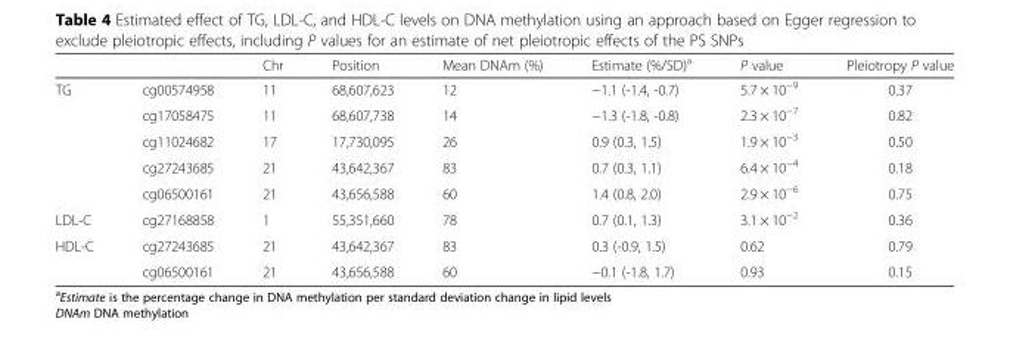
<table><thead><tr><td></td><td></td><td>Chr</td><td>Position</td><td>Mean DNAm (%)</td><td>Estimate (%/SD)<sup>a</sup></td><td>P value</td><td>Pleiotropy P value</td></tr></thead><tbody><tr><td rowspan="5">TG</td><td>cg00574958</td><td>11</td><td>68,607,623</td><td>12</td><td>−1.1 (-1.4, -0.7)</td><td>5.7 × 10<sup>−9</sup></td><td>0.37</td></tr><tr><td>cg17058475</td><td>11</td><td>68,607,738</td><td>14</td><td>−1.3 (-1.8, -0.8)</td><td>2.3 × 10<sup>−7</sup></td><td>0.82</td></tr><tr><td>cg11024682</td><td>17</td><td>17,730,095</td><td>26</td><td>0.9 (0.3, 1.5)</td><td>1.9 × 10<sup>−3</sup></td><td>0.50</td></tr><tr><td>cg27243685</td><td>21</td><td>43,642,367</td><td>83</td><td>0.7 (0.3, 1.1)</td><td>6.4 × 10<sup>−4</sup></td><td>0.18</td></tr><tr><td>cg06500161</td><td>21</td><td>43,656,588</td><td>60</td><td>1.4 (0.8, 2.0)</td><td>2.9 × 10<sup>−6</sup></td><td>0.75</td></tr><tr><td>LDL-C</td><td>cg27168858</td><td>1</td><td>55,351,660</td><td>78</td><td>0.7 (0.1, 1.3)</td><td>3.1 × 10<sup>−2</sup></td><td>0.36</td></tr><tr><td rowspan="2">HDL-C</td><td>cg27243685</td><td>21</td><td>43,642,367</td><td>83</td><td>0.3 (-0.9, 1.5)</td><td>0.62</td><td>0.79</td></tr><tr><td>cg06500161</td><td>21</td><td>43,656,588</td><td>60</td><td>−0.1 (-1.8, 1.7)</td><td>0.93</td><td>0.15</td></tr></tbody></table>